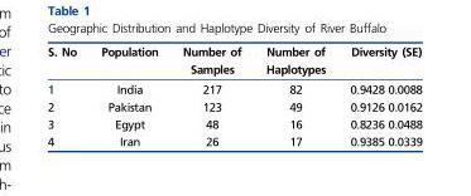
<table><thead><tr><td>S. No</td><td>Population</td><td>Number of Samples</td><td>Number of Haplotypes</td><td>Diversity (SE)</td></tr></thead><tbody><tr><td>1</td><td>India</td><td>217</td><td>82</td><td>0.9428 0.0088</td></tr><tr><td>2</td><td>Pakistan</td><td>123</td><td>49</td><td>0.9126 0.0162</td></tr><tr><td>3</td><td>Egypt</td><td>48</td><td>16</td><td>0.8236 0.0488</td></tr><tr><td>4</td><td>Iran</td><td>26</td><td>17</td><td>0.9385 0.0339</td></tr></tbody></table>